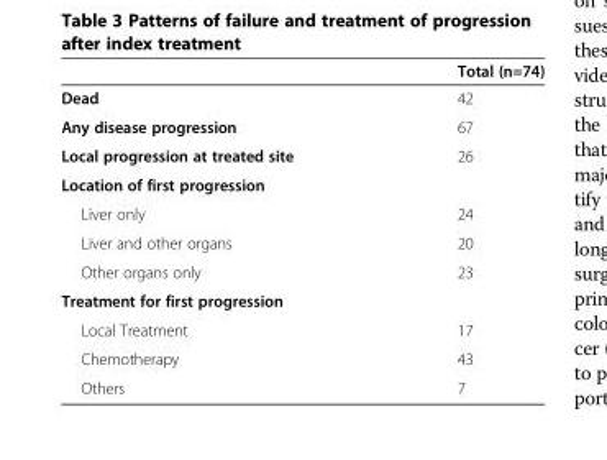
<table><thead><tr><td></td><td>Total (n=74)</td></tr></thead><tbody><tr><td>Dead</td><td>42</td></tr><tr><td>Any disease progression</td><td>67</td></tr><tr><td>Local progression at treated site</td><td>26</td></tr><tr><td colspan="2">Location of first progression</td></tr><tr><td>Liver only</td><td>24</td></tr><tr><td>Liver and other organs</td><td>20</td></tr><tr><td>Other organs only</td><td>23</td></tr><tr><td colspan="2">Treatment for first progression</td></tr><tr><td>Local Treatment</td><td>17</td></tr><tr><td>Chemotherapy</td><td>43</td></tr><tr><td>Others</td><td>7</td></tr></tbody></table>